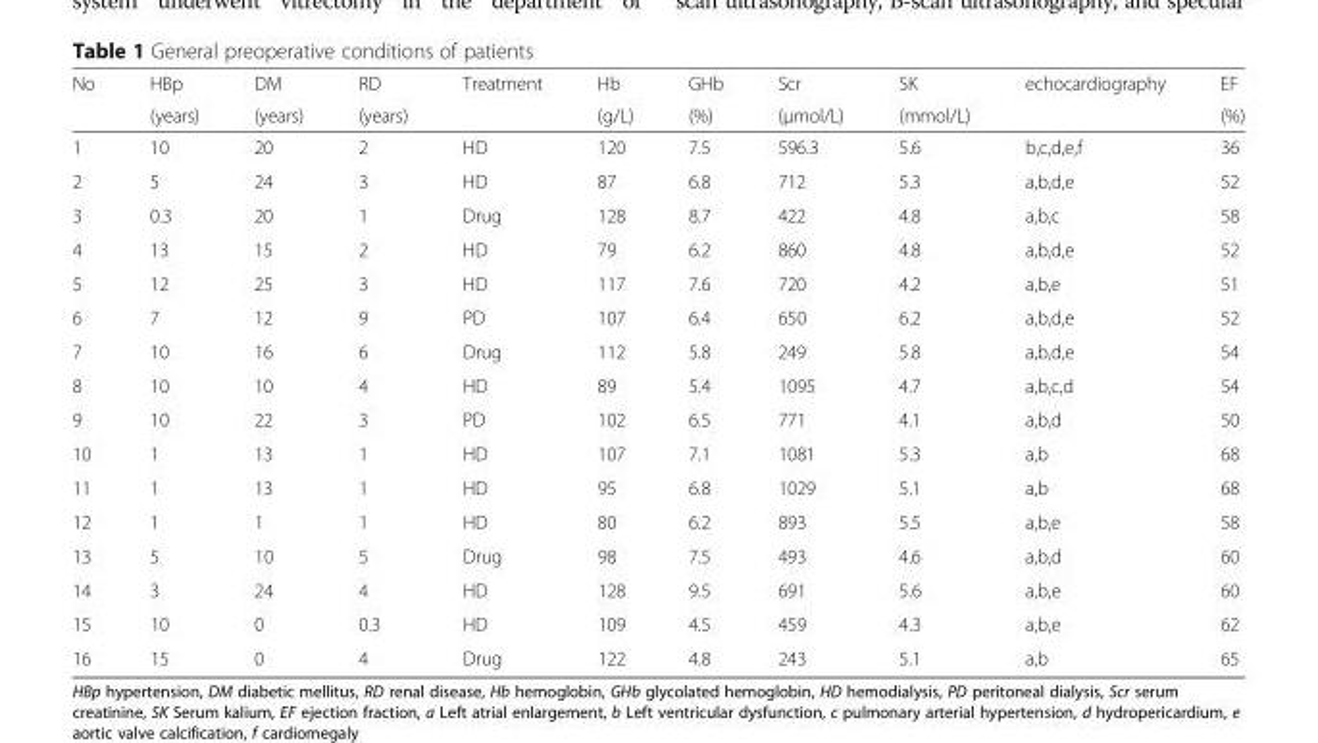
<table><thead><tr><td rowspan="2">No</td><td rowspan="2">HBp (years)</td><td rowspan="2">DM (years)</td><td rowspan="2">RD (years)</td><td rowspan="2">Treatment</td><td rowspan="2">Hb (g/L)</td><td rowspan="2">GHb (%)</td><td rowspan="2">Scr (μmol/L)</td><td rowspan="2">SK (mmol/L)</td><td rowspan="2">echocardiography</td><td rowspan="2">EF (%)</td></tr><tr></tr></thead><tbody><tr><td>1</td><td>10</td><td>20</td><td>2</td><td>HD</td><td>120</td><td>7.5</td><td>596.3</td><td>5.6</td><td>b,c,d,e,f</td><td>36</td></tr><tr><td>2</td><td>5</td><td>24</td><td>3</td><td>HD</td><td>87</td><td>6.8</td><td>712</td><td>5.3</td><td>a,b,d,e</td><td>52</td></tr><tr><td>3</td><td>0.3</td><td>20</td><td>1</td><td>Drug</td><td>128</td><td>8.7</td><td>422</td><td>4.8</td><td>a,b,c</td><td>58</td></tr><tr><td>4</td><td>13</td><td>15</td><td>2</td><td>HD</td><td>79</td><td>6.2</td><td>860</td><td>4.8</td><td>a,b,d,e</td><td>52</td></tr><tr><td>5</td><td>12</td><td>25</td><td>3</td><td>HD</td><td>117</td><td>7.6</td><td>720</td><td>4.2</td><td>a,b,e</td><td>51</td></tr><tr><td>6</td><td>7</td><td>12</td><td>9</td><td>PD</td><td>107</td><td>6.4</td><td>650</td><td>6.2</td><td>a,b,d,e</td><td>52</td></tr><tr><td>7</td><td>10</td><td>16</td><td>6</td><td>Drug</td><td>112</td><td>5.8</td><td>249</td><td>5.8</td><td>a,b,d,e</td><td>54</td></tr><tr><td>8</td><td>10</td><td>10</td><td>4</td><td>HD</td><td>89</td><td>5.4</td><td>1095</td><td>4.7</td><td>a,b,c,d</td><td>54</td></tr><tr><td>9</td><td>10</td><td>22</td><td>3</td><td>PD</td><td>102</td><td>6.5</td><td>771</td><td>4.1</td><td>a,b,d</td><td>50</td></tr><tr><td>10</td><td>1</td><td>13</td><td>1</td><td>HD</td><td>107</td><td>7.1</td><td>1081</td><td>5.3</td><td>a,b</td><td>68</td></tr><tr><td>11</td><td>1</td><td>13</td><td>1</td><td>HD</td><td>95</td><td>6.8</td><td>1029</td><td>5.1</td><td>a,b</td><td>68</td></tr><tr><td>12</td><td>1</td><td>1</td><td>1</td><td>HD</td><td>80</td><td>6.2</td><td>893</td><td>5.5</td><td>a,b,e</td><td>58</td></tr><tr><td>13</td><td>5</td><td>10</td><td>5</td><td>Drug</td><td>98</td><td>7.5</td><td>493</td><td>4.6</td><td>a,b,d</td><td>60</td></tr><tr><td>14</td><td>3</td><td>24</td><td>4</td><td>HD</td><td>128</td><td>9.5</td><td>691</td><td>5.6</td><td>a,b,e</td><td>60</td></tr><tr><td>15</td><td>10</td><td>0</td><td>0.3</td><td>HD</td><td>109</td><td>4.5</td><td>459</td><td>4.3</td><td>a,b,e</td><td>62</td></tr><tr><td>16</td><td>15</td><td>0</td><td>4</td><td>Drug</td><td>122</td><td>4.8</td><td>243</td><td>5.1</td><td>a,b</td><td>65</td></tr></tbody></table>